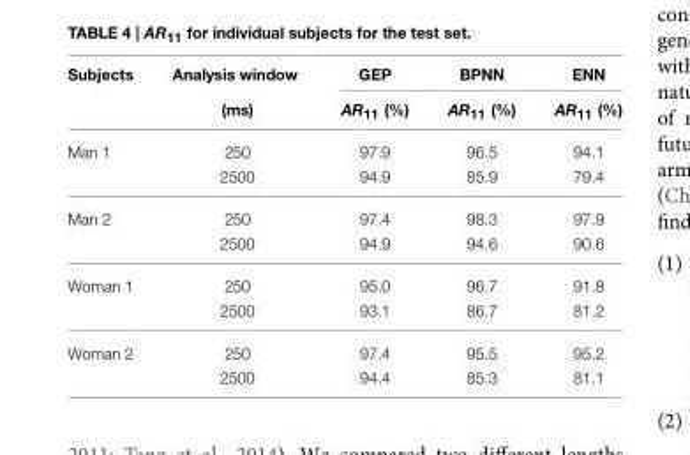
<table><thead><tr><td rowspan="2">Subjects</td><td rowspan="2">Analysis window (ms)</td><td rowspan="2">GEP AR<sub>11</sub> (%)</td><td rowspan="2">BPNN AR<sub>11</sub> (%)</td><td rowspan="2">ENN AR<sub>11</sub> (%)</td></tr><tr></tr></thead><tbody><tr><td rowspan="2">Man 1</td><td>250</td><td>97.9</td><td>96.5</td><td>94.1</td></tr><tr><td>2500</td><td>94.9</td><td>85.9</td><td>79.4</td></tr><tr><td rowspan="2">Man 2</td><td>250</td><td>97.4</td><td>98.3</td><td>97.9</td></tr><tr><td>2500</td><td>94.9</td><td>94.6</td><td>90.6</td></tr><tr><td rowspan="2">Woman 1</td><td>250</td><td>95.0</td><td>96.7</td><td>91.8</td></tr><tr><td>2500</td><td>93.1</td><td>86.7</td><td>81.2</td></tr><tr><td rowspan="2">Woman 2</td><td>250</td><td>97.4</td><td>95.5</td><td>95.2</td></tr><tr><td>2500</td><td>94.4</td><td>85.3</td><td>81.1</td></tr></tbody></table>